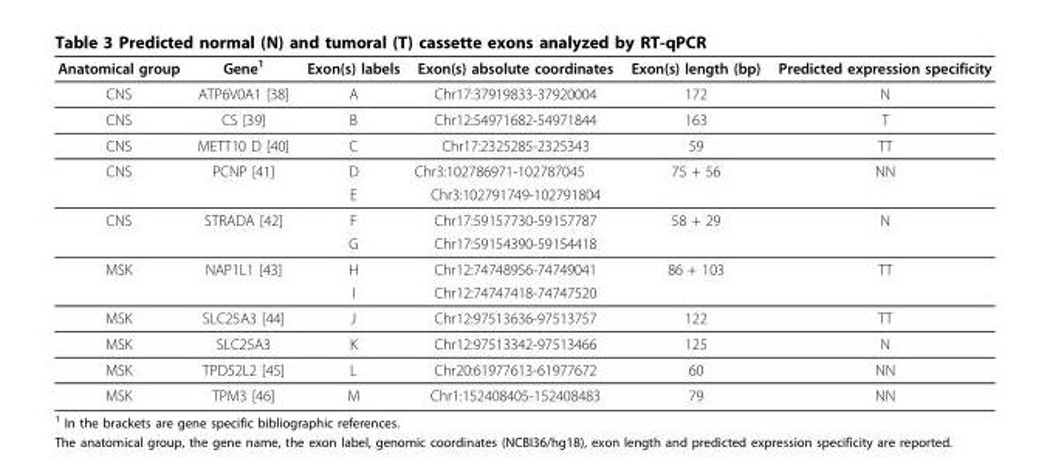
<table><thead><tr><td>Anatomical group</td><td>Gene1</td><td>Exon(s) labels</td><td>Exon(s) absolute coordinates</td><td>Exon(s) length (bp)</td><td>Predicted expression specificity</td></tr></thead><tbody><tr><td>CNS</td><td>ATP6V0A1 [38]</td><td>A</td><td>Chr17:37919833-37920004</td><td>172</td><td>N</td></tr><tr><td>CNS</td><td>CS [39]</td><td>B</td><td>Chr12:54971682-54971844</td><td>163</td><td>T</td></tr><tr><td>CNS</td><td>METT10 D [40]</td><td>C</td><td>Chr17:2325285-2325343</td><td>59</td><td>TT</td></tr><tr><td rowspan="2">CNS</td><td>PCNP [41]</td><td>D</td><td>Chr3:102786971-102787045</td><td>75 + 56</td><td>NN</td></tr><tr><td></td><td>E</td><td>Chr3:102791749-102791804</td><td></td><td></td></tr><tr><td rowspan="2">CNS</td><td>STRADA [42]</td><td>F</td><td>Chr17:59157730-59157787</td><td>58 + 29</td><td>N</td></tr><tr><td></td><td>G</td><td>Chr17:59154390-59154418</td><td></td><td></td></tr><tr><td rowspan="2">MSK</td><td>NAP1L1 [43]</td><td>H</td><td>Chr12:74748956-74749041</td><td>86 + 103</td><td>TT</td></tr><tr><td></td><td>I</td><td>Chr12:74747418-74747520</td><td></td><td></td></tr><tr><td>MSK</td><td>SLC25A3 [44]</td><td>J</td><td>Chr12:97513636-97513757</td><td>122</td><td>TT</td></tr><tr><td>MSK</td><td>SLC25A3</td><td>K</td><td>Chr12:97513342-97513466</td><td>125</td><td>N</td></tr><tr><td>MSK</td><td>TPD52L2 [45]</td><td>L</td><td>Chr20:61977613-61977672</td><td>60</td><td>NN</td></tr><tr><td>MSK</td><td>TPM3 [46]</td><td>M</td><td>Chr1:152408405-152408483</td><td>79</td><td>NN</td></tr></tbody></table>